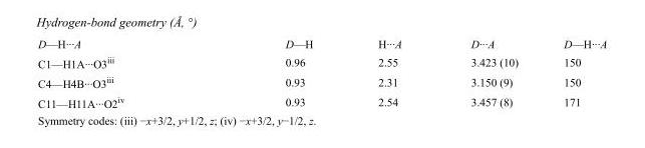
<table><tbody><tr><td>D—H···A</td><td>D—H</td><td>H···A</td><td>D···A</td><td>D—H···A</td></tr><tr><td>C1—H1A···O3<sup>iii</sup></td><td>0.96</td><td>2.55</td><td>3.423 (10)</td><td>150</td></tr><tr><td>C4—H4B···O3<sup>iii</sup></td><td>0.93</td><td>2.31</td><td>3.150 (9)</td><td>150</td></tr><tr><td>C11—H11A···O2<sup>iv</sup></td><td>0.93</td><td>2.54</td><td>3.457 (8)</td><td>171</td></tr></tbody></table>